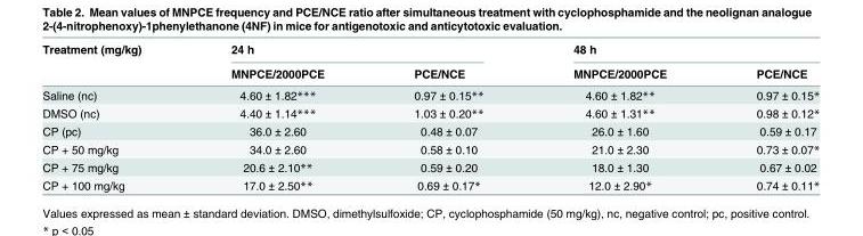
<table><thead><tr><td rowspan="2">Treatment (mg/kg)</td><td colspan="2">24 h</td><td colspan="2">48 h</td></tr><tr><td>MNPCE/2000PCE</td><td>PCE/NCE</td><td>MNPCE/2000PCE</td><td>PCE/NCE</td></tr></thead><tbody><tr><td>Saline (nc)</td><td>4.60 ± 1.82***</td><td>0.97 ± 0.15**</td><td>4.60 ± 1.82**</td><td>0.97 ± 0.15*</td></tr><tr><td>DMSO (nc)</td><td>4.40 ± 1.14***</td><td>1.03 ± 0.20**</td><td>4.60 ± 1.31**</td><td>0.98 ± 0.12*</td></tr><tr><td>CP (pc)</td><td>36.0 ± 2.60</td><td>0.48 ± 0.07</td><td>26.0 ± 1.60</td><td>0.59 ± 0.17</td></tr><tr><td>CP + 50 mg/kg</td><td>34.0 ± 2.60</td><td>0.58 ± 0.10</td><td>21.0 ± 2.30</td><td>0.73 ± 0.07*</td></tr><tr><td>CP + 75 mg/kg</td><td>20.6 ± 2.10**</td><td>0.59 ± 0.20</td><td>18.0 ± 1.30</td><td>0.67 ± 0.02</td></tr><tr><td>CP + 100 mg/kg</td><td>17.0 ± 2.50**</td><td>0.69 ± 0.17*</td><td>12.0 ± 2.90*</td><td>0.74 ± 0.11*</td></tr></tbody></table>